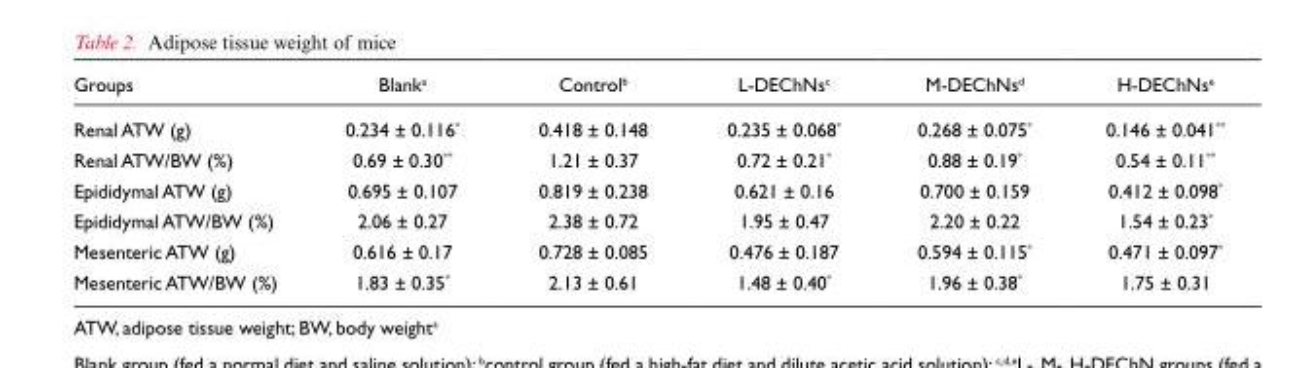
<table><thead><tr><td>Groups</td><td>Blank<sup>a</sup></td><td>Control<sup>b</sup></td><td>L-DEChNs<sup>c</sup></td><td>M-DEChNs<sup>d</sup></td><td>H-DEChNs<sup>e</sup></td></tr></thead><tbody><tr><td>Renal ATW (g)</td><td>0.234 ± 0.116*</td><td>0.418 ± 0.148</td><td>0.235 ± 0.068*</td><td>0.268 ± 0.075*</td><td>0.146 ± 0.041**</td></tr><tr><td>Renal ATW/BW (%)</td><td>0.69 ± 0.30**</td><td>1.21 ± 0.37</td><td>0.72 ± 0.21*</td><td>0.88 ± 0.19*</td><td>0.54 ± 0.11**</td></tr><tr><td>Epididymal ATW (g)</td><td>0.695 ± 0.107</td><td>0.819 ± 0.238</td><td>0.621 ± 0.16</td><td>0.700 ± 0.159</td><td>0.412 ± 0.098*</td></tr><tr><td>Epididymal ATW/BW (%)</td><td>2.06 ± 0.27</td><td>2.38 ± 0.72</td><td>1.95 ± 0.47</td><td>2.20 ± 0.22</td><td>1.54 ± 0.23*</td></tr><tr><td>Mesenteric ATW (g)</td><td>0.616 ± 0.17</td><td>0.728 ± 0.085</td><td>0.476 ± 0.187</td><td>0.594 ± 0.115*</td><td>0.471 ± 0.097*</td></tr><tr><td>Mesenteric ATW/BW (%)</td><td>1.83 ± 0.35*</td><td>2.13 ± 0.61</td><td>1.48 ± 0.40*</td><td>1.96 ± 0.38*</td><td>1.75 ± 0.31</td></tr></tbody></table>